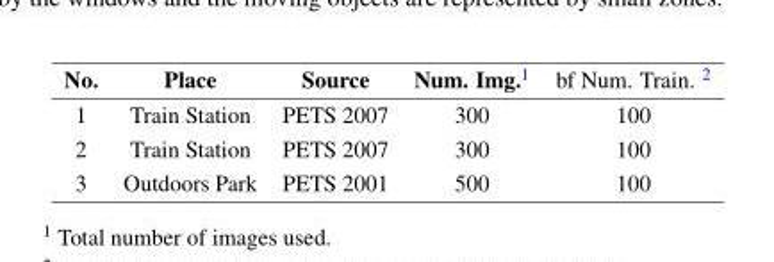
<table><thead><tr><td>No.</td><td>Place</td><td>Source</td><td>Num. Img.<sup>1</sup></td><td>bf Num. Train. <sup>2</sup></td></tr></thead><tbody><tr><td>1</td><td>Train Station</td><td>PETS 2007</td><td>300</td><td>100</td></tr><tr><td>2</td><td>Train Station</td><td>PETS 2007</td><td>300</td><td>100</td></tr><tr><td>3</td><td>Outdoors Park</td><td>PETS 2001</td><td>500</td><td>100</td></tr></tbody></table>